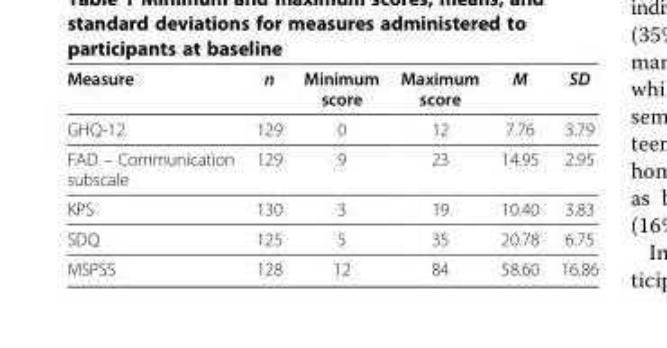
<table><thead><tr><td>Measure</td><td>n</td><td>Minimum score</td><td>Maximum score</td><td>M</td><td>SD</td></tr></thead><tbody><tr><td>GHQ-12</td><td>129</td><td>0</td><td>12</td><td>7.76</td><td>3.79</td></tr><tr><td>FAD – Communication subscale</td><td>129</td><td>9</td><td>23</td><td>14.95</td><td>2.95</td></tr><tr><td>KPS</td><td>130</td><td>3</td><td>19</td><td>10.40</td><td>3.83</td></tr><tr><td>SDQ</td><td>125</td><td>5</td><td>35</td><td>20.78</td><td>6.75</td></tr><tr><td>MSPSS</td><td>128</td><td>12</td><td>84</td><td>58.60</td><td>16.86</td></tr></tbody></table>